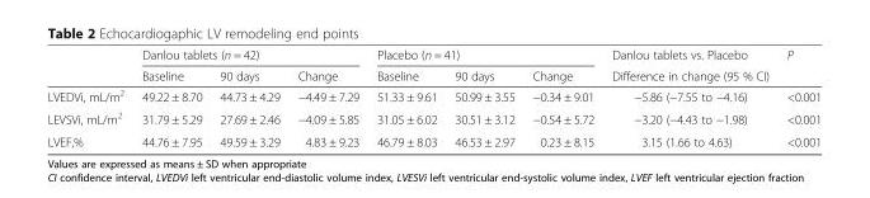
<table><thead><tr><td rowspan="2"></td><td colspan="3">Danlou tablets (n = 42)</td><td colspan="3">Placebo (n = 41)</td><td rowspan="2">Danlou tablets vs. Placebo Difference in change (95 % CI)</td><td rowspan="2">P</td></tr><tr><td>Baseline</td><td>90 days</td><td>Change</td><td>Baseline</td><td>90 days</td><td>Change</td></tr></thead><tbody><tr><td>LVEDVi, mL/m<sup>2</sup></td><td>49.22 ± 8.70</td><td>44.73 ± 4.29</td><td>−4.49 ± 7.29</td><td>51.33 ± 9.61</td><td>50.99 ± 3.55</td><td>−0.34 ± 9.01</td><td>−5.86 (−7.55 to −4.16)</td><td>&lt;0.001</td></tr><tr><td>LEVSVi, mL/m<sup>2</sup></td><td>31.79 ± 5.29</td><td>27.69 ± 2.46</td><td>−4.09 ± 5.85</td><td>31.05 ± 6.02</td><td>30.51 ± 3.12</td><td>−0.54 ± 5.72</td><td>−3.20 (−4.43 to −1.98)</td><td>&lt;0.001</td></tr><tr><td>LVEF,%</td><td>44.76 ± 7.95</td><td>49.59 ± 3.29</td><td>4.83 ± 9.23</td><td>46.79 ± 8.03</td><td>46.53 ± 2.97</td><td>0.23 ± 8.15</td><td>3.15 (1.66 to 4.63)</td><td>&lt;0.001</td></tr></tbody></table>